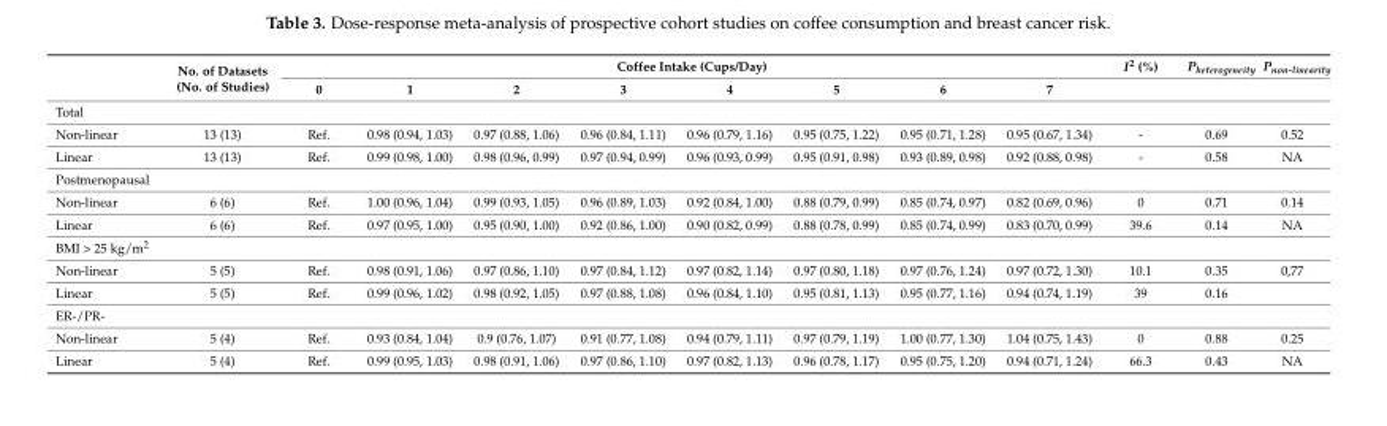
<table><thead><tr><td rowspan="2"></td><td rowspan="2">No. of Datasets (No. of Studies)</td><td colspan="8">Coffee Intake (Cups/Day)</td><td rowspan="2">I<sup>2</sup> (%)</td><td rowspan="2">P<sub>heterogeneity</sub></td><td rowspan="2">P<sub>non-linearity</sub></td></tr><tr><td>0</td><td>1</td><td>2</td><td>3</td><td>4</td><td>5</td><td>6</td><td>7</td></tr></thead><tbody><tr><td colspan="13">Total</td></tr><tr><td>Non-linear</td><td>13 (13)</td><td>Ref.</td><td>0.98 (0.94, 1.03)</td><td>0.97 (0.88, 1.06)</td><td>0.96 (0.84, 1.11)</td><td>0.96 (0.79, 1.16)</td><td>0.95 (0.75, 1.22)</td><td>0.95 (0.71, 1.28)</td><td>0.95 (0.67, 1.34)</td><td>-</td><td>0.69</td><td>0.52</td></tr><tr><td>Linear</td><td>13 (13)</td><td>Ref.</td><td>0.99 (0.98, 1.00)</td><td>0.98 (0.96, 0.99)</td><td>0.97 (0.94, 0.99)</td><td>0.96 (0.93, 0.99)</td><td>0.95 (0.91, 0.98)</td><td>0.93 (0.89, 0.98)</td><td>0.92 (0.88, 0.98)</td><td>-</td><td>0.58</td><td>NA</td></tr><tr><td colspan="13">Postmenopausal</td></tr><tr><td>Non-linear</td><td>6 (6)</td><td>Ref.</td><td>1.00 (0.96, 1.04)</td><td>0.99 (0.93, 1.05)</td><td>0.96 (0.89, 1.03)</td><td>0.92 (0.84, 1.00)</td><td>0.88 (0.79, 0.99)</td><td>0.85 (0.74, 0.97)</td><td>0.82 (0.69, 0.96)</td><td>0</td><td>0.71</td><td>0.14</td></tr><tr><td>Linear</td><td>6 (6)</td><td>Ref.</td><td>0.97 (0.95, 1.00)</td><td>0.95 (0.90, 1.00)</td><td>0.92 (0.86, 1.00)</td><td>0.90 (0.82, 0.99)</td><td>0.88 (0.78, 0.99)</td><td>0.85 (0.74, 0.99)</td><td>0.83 (0.70, 0.99)</td><td>39.6</td><td>0.14</td><td>NA</td></tr><tr><td colspan="13">BMI &gt; 25 kg/m<sup>2</sup></td></tr><tr><td>Non-linear</td><td>5 (5)</td><td>Ref.</td><td>0.98 (0.91, 1.06)</td><td>0.97 (0.86, 1.10)</td><td>0.97 (0.84, 1.12)</td><td>0.97 (0.82, 1.14)</td><td>0.97 (0.80, 1.18)</td><td>0.97 (0.76, 1.24)</td><td>0.97 (0.72, 1.30)</td><td>10.1</td><td>0.35</td><td>0,77</td></tr><tr><td>Linear</td><td>5 (5)</td><td>Ref.</td><td>0.99 (0.96, 1.02)</td><td>0.98 (0.92, 1.05)</td><td>0.97 (0.88, 1.08)</td><td>0.96 (0.84, 1.10)</td><td>0.95 (0.81, 1.13)</td><td>0.95 (0.77, 1.16)</td><td>0.94 (0.74, 1.19)</td><td>39</td><td>0.16</td><td></td></tr><tr><td colspan="13">ER-/PR-</td></tr><tr><td>Non-linear</td><td>5 (4)</td><td>Ref.</td><td>0.93 (0.84, 1.04)</td><td>0.9 (0.76, 1.07)</td><td>0.91 (0.77, 1.08)</td><td>0.94 (0.79, 1.11)</td><td>0.97 (0.79, 1.19)</td><td>1.00 (0.77, 1.30)</td><td>1.04 (0.75, 1.43)</td><td>0</td><td>0.88</td><td>0.25</td></tr><tr><td>Linear</td><td>5 (4)</td><td>Ref.</td><td>0.99 (0.95, 1.03)</td><td>0.98 (0.91, 1.06)</td><td>0.97 (0.86, 1.10)</td><td>0.97 (0.82, 1.13)</td><td>0.96 (0.78, 1.17)</td><td>0.95 (0.75, 1.20)</td><td>0.94 (0.71, 1.24)</td><td>66.3</td><td>0.43</td><td>NA</td></tr></tbody></table>